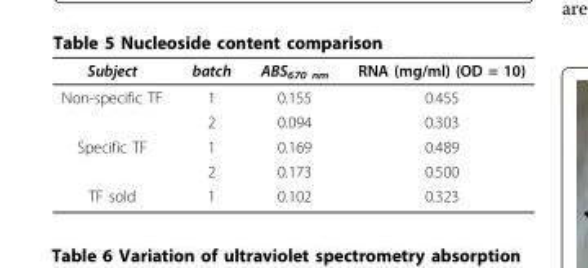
<table><thead><tr><td>Subject</td><td>batch</td><td>ABS<sub>670 nm</sub></td><td>RNA (mg/ml) (OD = 10)</td></tr></thead><tbody><tr><td rowspan="2">Non-specific TF</td><td>1</td><td>0.155</td><td>0.455</td></tr><tr><td>2</td><td>0.094</td><td>0.303</td></tr><tr><td rowspan="2">Specific TF</td><td>1</td><td>0.169</td><td>0.489</td></tr><tr><td>2</td><td>0.173</td><td>0.500</td></tr><tr><td>TF sold</td><td>1</td><td>0.102</td><td>0.323</td></tr></tbody></table>